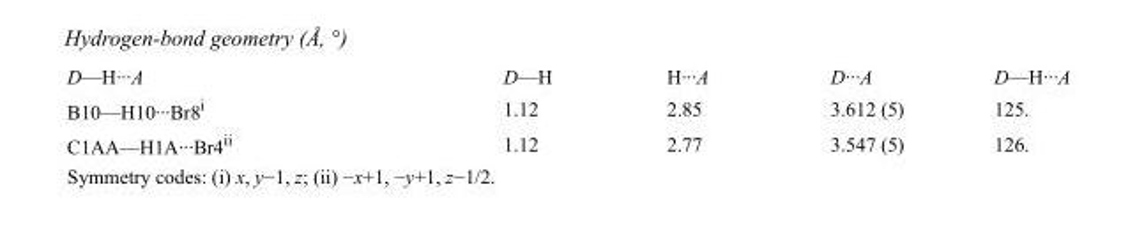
<table><tbody><tr><td>D—H···A</td><td>D—H</td><td>H···A</td><td>D···A</td><td>D—H···A</td></tr><tr><td>B10—H10···Br8<sup>i</sup></td><td>1.12</td><td>2.85</td><td>3.612 (5)</td><td>125.</td></tr><tr><td>C1AA—H1A···Br4<sup>ii</sup></td><td>1.12</td><td>2.77</td><td>3.547 (5)</td><td>126.</td></tr></tbody></table>